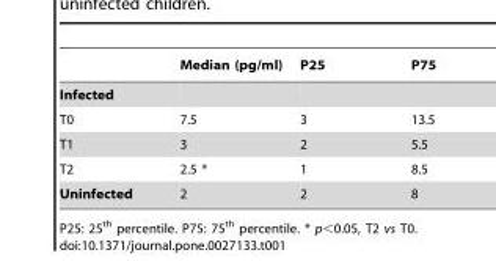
<table><thead><tr><td></td><td>Median (pg/ml)</td><td>P25</td><td>P75</td></tr></thead><tbody><tr><td colspan="4">Infected</td></tr><tr><td>T0</td><td>7.5</td><td>3</td><td>13.5</td></tr><tr><td>T1</td><td>3</td><td>2</td><td>5.5</td></tr><tr><td>T2</td><td>2.5 *</td><td>1</td><td>8.5</td></tr><tr><td>Uninfected</td><td>2</td><td>2</td><td>8</td></tr></tbody></table>